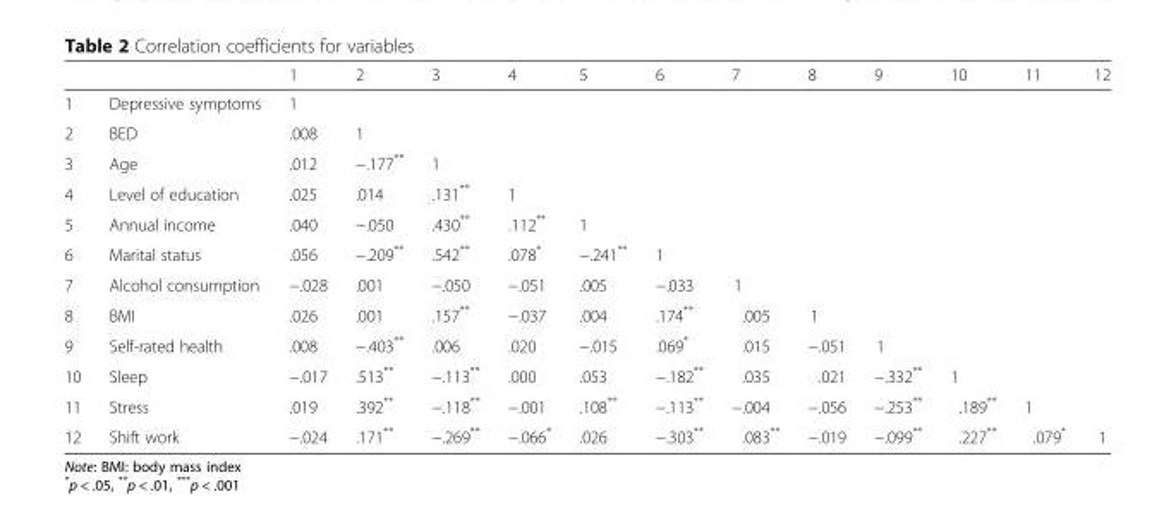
<table><thead><tr><td></td><td></td><td>1</td><td>2</td><td>3</td><td>4</td><td>5</td><td>6</td><td>7</td><td>8</td><td>9</td><td>10</td><td>11</td><td>12</td></tr></thead><tbody><tr><td>1</td><td>Depressive symptoms</td><td>1</td><td></td><td></td><td></td><td></td><td></td><td></td><td></td><td></td><td></td><td></td><td></td></tr><tr><td>2</td><td>BED</td><td>.008</td><td>1</td><td></td><td></td><td></td><td></td><td></td><td></td><td></td><td></td><td></td><td></td></tr><tr><td>3</td><td>Age</td><td>.012</td><td>−.177**</td><td>1</td><td></td><td></td><td></td><td></td><td></td><td></td><td></td><td></td><td></td></tr><tr><td>4</td><td>Level of education</td><td>.025</td><td>.014</td><td>.131**</td><td>1</td><td></td><td></td><td></td><td></td><td></td><td></td><td></td><td></td></tr><tr><td>5</td><td>Annual income</td><td>.040</td><td>−.050</td><td>.430**</td><td>.112**</td><td>1</td><td></td><td></td><td></td><td></td><td></td><td></td><td></td></tr><tr><td>6</td><td>Marital status</td><td>.056</td><td>−.209**</td><td>.542**</td><td>.078*</td><td>−.241**</td><td>1</td><td></td><td></td><td></td><td></td><td></td><td></td></tr><tr><td>7</td><td>Alcohol consumption</td><td>−.028</td><td>.001</td><td>−.050</td><td>−.051</td><td>.005</td><td>−.033</td><td>1</td><td></td><td></td><td></td><td></td><td></td></tr><tr><td>8</td><td>BMI</td><td>.026</td><td>.001</td><td>.157**</td><td>−.037</td><td>.004</td><td>.174**</td><td>.005</td><td>1</td><td></td><td></td><td></td><td></td></tr><tr><td>9</td><td>Self-rated health</td><td>.008</td><td>−.403**</td><td>.006</td><td>.020</td><td>−.015</td><td>.069*</td><td>.015</td><td>−.051</td><td>1</td><td></td><td></td><td></td></tr><tr><td>10</td><td>Sleep</td><td>−.017</td><td>.513**</td><td>−.113**</td><td>.000</td><td>.053</td><td>−.182**</td><td>.035</td><td>.021</td><td>−.332**</td><td>1</td><td></td><td></td></tr><tr><td>11</td><td>Stress</td><td>.019</td><td>.392**</td><td>−.118**</td><td>−.001</td><td>.108**</td><td>−.113**</td><td>−.004</td><td>−.056</td><td>−.253**</td><td>.189**</td><td>1</td><td></td></tr><tr><td>12</td><td>Shift work</td><td>−.024</td><td>.171**</td><td>−.269**</td><td>−.066*</td><td>.026</td><td>−.303**</td><td>.083**</td><td>−.019</td><td>−.099**</td><td>.227**</td><td>.079*</td><td>1</td></tr></tbody></table>